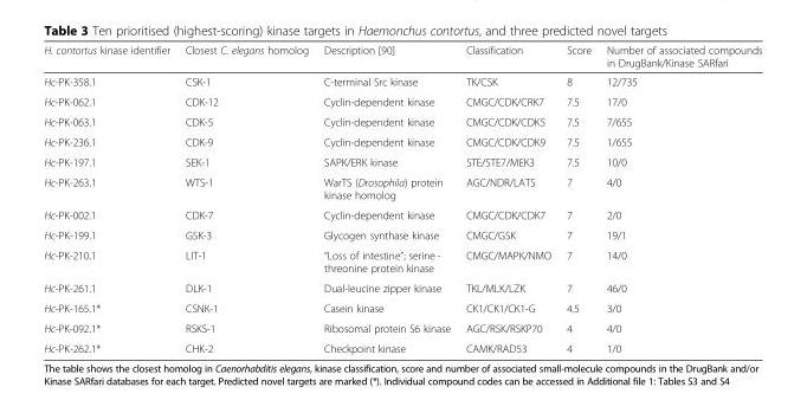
<table><thead><tr><td>H. contortus kinase identifier</td><td>Closest C. elegans homolog</td><td>Description [90]</td><td>Classification</td><td>Score</td><td>Number of associated compounds in DrugBank/Kinase SARfari</td></tr></thead><tbody><tr><td>Hc-PK-358.1</td><td>CSK-1</td><td>C-terminal Src kinase</td><td>TK/CSK</td><td>8</td><td>12/735</td></tr><tr><td>Hc-PK-062.1</td><td>CDK-12</td><td>Cyclin-dependent kinase</td><td>CMGC/CDK/CRK7</td><td>7.5</td><td>17/0</td></tr><tr><td>Hc-PK-063.1</td><td>CDK-5</td><td>Cyclin-dependent kinase</td><td>CMGC/CDK/CDK5</td><td>7.5</td><td>7/655</td></tr><tr><td>Hc-PK-236.1</td><td>CDK-9</td><td>Cyclin-dependent kinase</td><td>CMGC/CDK/CDK9</td><td>7.5</td><td>1/655</td></tr><tr><td>Hc-PK-197.1</td><td>SEK-1</td><td>SAPK/ERK kinase</td><td>STE/STE7/MEK3</td><td>7.5</td><td>10/0</td></tr><tr><td>Hc-PK-263.1</td><td>WTS-1</td><td>WarTS (Drosophila) protein kinase homolog</td><td>AGC/NDR/LATS</td><td>7</td><td>4/0</td></tr><tr><td>Hc-PK-002.1</td><td>CDK-7</td><td>Cyclin-dependent kinase</td><td>CMGC/CDK/CDK7</td><td>7</td><td>2/0</td></tr><tr><td>Hc-PK-199.1</td><td>GSK-3</td><td>Glycogen synthase kinase</td><td>CMGC/GSK</td><td>7</td><td>19/1</td></tr><tr><td>Hc-PK-210.1</td><td>LIT-1</td><td>“Loss of intestine”; serine - threonine protein kinase</td><td>CMGC/MAPK/NMO</td><td>7</td><td>14/0</td></tr><tr><td>Hc-PK-261.1</td><td>DLK-1</td><td>Dual-leucine zipper kinase</td><td>TKL/MLK/LZK</td><td>7</td><td>46/0</td></tr><tr><td>Hc-PK-165.1*</td><td>CSNK-1</td><td>Casein kinase</td><td>CK1/CK1/CK1-G</td><td>4.5</td><td>3/0</td></tr><tr><td>Hc-PK-092.1*</td><td>RSKS-1</td><td>Ribosomal protein S6 kinase</td><td>AGC/RSK/RSKP70</td><td>4</td><td>4/0</td></tr><tr><td>Hc-PK-262.1*</td><td>CHK-2</td><td>Checkpoint kinase</td><td>CAMK/RAD53</td><td>4</td><td>1/0</td></tr></tbody></table>